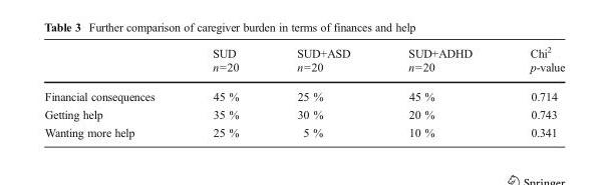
<table><thead><tr><td></td><td>SUD n=20</td><td>SUD+ASD n=20</td><td>SUD+ADHD n=20</td><td>Chi<sup>2</sup> p-value</td></tr></thead><tbody><tr><td>Financial consequences</td><td>45 %</td><td>25 %</td><td>45 %</td><td>0.714</td></tr><tr><td>Getting help</td><td>35 %</td><td>30 %</td><td>20 %</td><td>0.743</td></tr><tr><td>Wanting more help</td><td>25 %</td><td>5 %</td><td>10 %</td><td>0.341</td></tr></tbody></table>